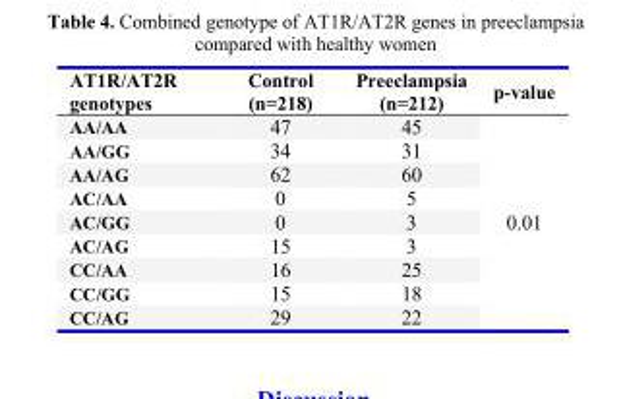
<table><thead><tr><td>AT1R/AT2R genotypes</td><td>Control (n=218)</td><td>Preeclampsia (n=212)</td><td>p-value</td></tr></thead><tbody><tr><td>AA/AA</td><td>47</td><td>45</td><td rowspan="9">0.01</td></tr><tr><td>AA/GG</td><td>34</td><td>31</td></tr><tr><td>AA/AG</td><td>62</td><td>60</td></tr><tr><td>AC/AA</td><td>0</td><td>5</td></tr><tr><td>AC/GG</td><td>0</td><td>3</td></tr><tr><td>AC/AG</td><td>15</td><td>3</td></tr><tr><td>CC/AA</td><td>16</td><td>25</td></tr><tr><td>CC/GG</td><td>15</td><td>18</td></tr><tr><td>CC/AG</td><td>29</td><td>22</td></tr></tbody></table>